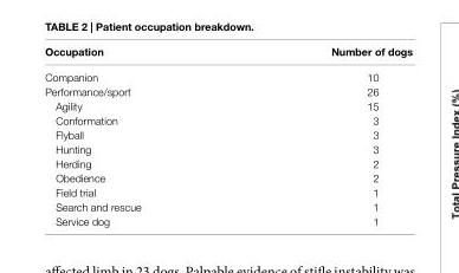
<table><thead><tr><td>Occupation</td><td>number of dogs</td></tr></thead><tbody><tr><td>Companion</td><td>10</td></tr><tr><td>Performance/sport</td><td>26</td></tr><tr><td>Agility</td><td>15</td></tr><tr><td>Conformation</td><td>3</td></tr><tr><td>Flyball</td><td>3</td></tr><tr><td>Hunting</td><td>3</td></tr><tr><td>Herding</td><td>2</td></tr><tr><td>Obedience</td><td>2</td></tr><tr><td>Field trial</td><td>1</td></tr><tr><td>Search and rescue</td><td>1</td></tr><tr><td>Service dog</td><td>1</td></tr></tbody></table>